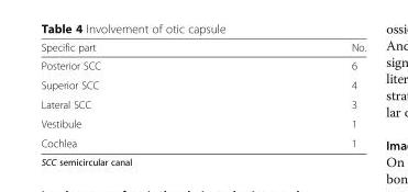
<table><thead><tr><td>Specific part</td><td>No.</td></tr></thead><tbody><tr><td>Posterior SCC</td><td>6</td></tr><tr><td>Superior SCC</td><td>4</td></tr><tr><td>Lateral SCC</td><td>3</td></tr><tr><td>Vestibule</td><td>1</td></tr><tr><td>Cochlea</td><td>1</td></tr></tbody></table>